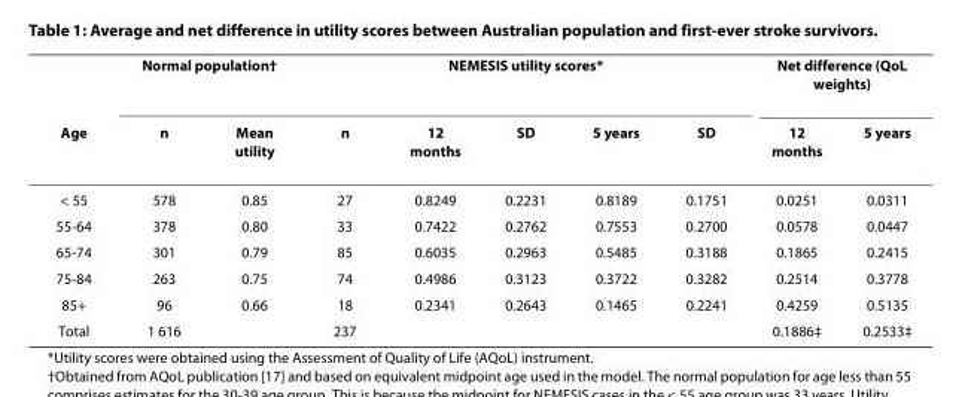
<table><thead><tr><td rowspan="2">Age</td><td colspan="2">Normal population†</td><td colspan="5">NEMESIS utility scores*</td><td colspan="2">Net difference (QoL weights)</td></tr><tr><td>n</td><td>Mean utility</td><td>n</td><td>12 months</td><td>SD</td><td>5 years</td><td>SD</td><td>12 months</td><td>5 years</td></tr></thead><tbody><tr><td>&lt; 55</td><td>578</td><td>0.85</td><td>27</td><td>0.8249</td><td>0.2231</td><td>0.8189</td><td>0.1751</td><td>0.0251</td><td>0.0311</td></tr><tr><td>55-64</td><td>378</td><td>0.80</td><td>33</td><td>0.7422</td><td>0.2762</td><td>0.7553</td><td>0.2700</td><td>0.0578</td><td>0.0447</td></tr><tr><td>65-74</td><td>301</td><td>0.79</td><td>85</td><td>0.6035</td><td>0.2963</td><td>0.5485</td><td>0.3188</td><td>0.1865</td><td>0.2415</td></tr><tr><td>75-84</td><td>263</td><td>0.75</td><td>74</td><td>0.4986</td><td>0.3123</td><td>0.3722</td><td>0.3282</td><td>0.2514</td><td>0.3778</td></tr><tr><td>85+</td><td>96</td><td>0.66</td><td>18</td><td>0.2341</td><td>0.2643</td><td>0.1465</td><td>0.2241</td><td>0.4259</td><td>0.5135</td></tr><tr><td>Total</td><td>1 616</td><td></td><td>237</td><td></td><td></td><td></td><td></td><td>0.1886‡</td><td>0.2533‡</td></tr></tbody></table>